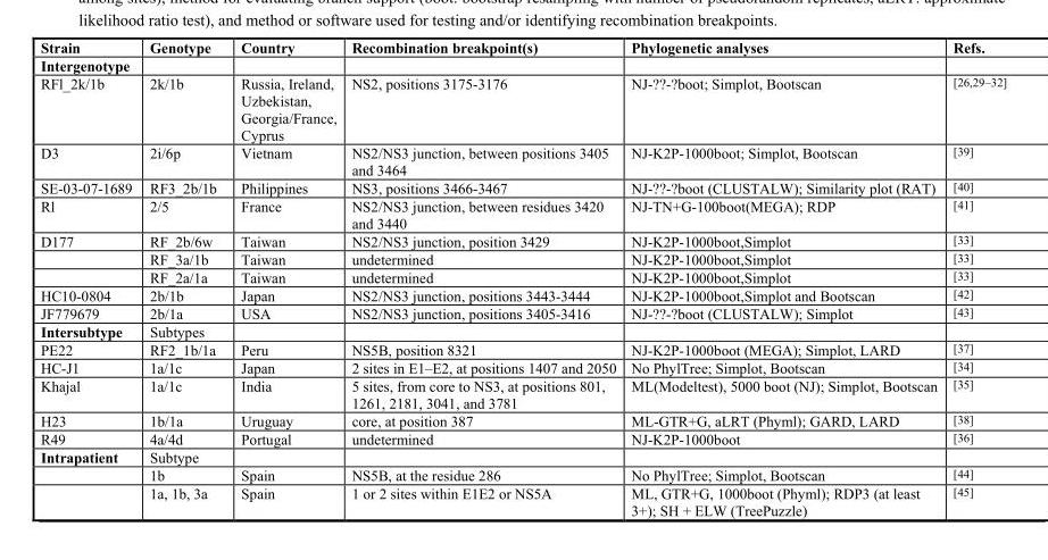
<table><thead><tr><td>Strain</td><td>Genotype</td><td>Country</td><td>Recombination breakpoint(s)</td><td>Phylogenetic analyses</td><td>Refs.</td></tr></thead><tbody><tr><td colspan="6">Intergenotype</td></tr><tr><td>RFl_2k/1b</td><td>2k/1b</td><td>Russia, Ireland, Uzbekistan, Georgia/France, Cyprus</td><td>NS2, positions 3175-3176</td><td>NJ-??-?boot; Simplot, Bootscan</td><td>[26,29–32]</td></tr><tr><td>D3</td><td>2i/6p</td><td>Vietnam</td><td>NS2/NS3 junction, between positions 3405 and 3464</td><td>NJ-K2P-1000boot; Simplot, Bootscan</td><td>[39]</td></tr><tr><td>SE-03-07-1689</td><td>RF3_2b/1b</td><td>Philippines</td><td>NS3, positions 3466-3467</td><td>NJ-??-?boot (CLUSTALW); Similarity plot (RAT)</td><td>[40]</td></tr><tr><td>Rl</td><td>2/5</td><td>France</td><td>NS2/NS3 junction, between residues 3420 and 3440</td><td>NJ-TN+G-100boot(MEGA); RDP</td><td>[41]</td></tr><tr><td rowspan="3">D177</td><td>RF_2b/6w</td><td>Taiwan</td><td>NS2/NS3 junction, position 3429</td><td>NJ-K2P-1000boot,Simplot</td><td>[33]</td></tr><tr><td>RF_3a/1b</td><td>Taiwan</td><td>undetermined</td><td>NJ-K2P-1000boot,Simplot</td><td>[33]</td></tr><tr><td>RF_2a/1a</td><td>Taiwan</td><td>undetermined</td><td>NJ-K2P-1000boot,Simplot</td><td>[33]</td></tr><tr><td>HC10-0804</td><td>2b/1b</td><td>Japan</td><td>NS2/NS3 junction, positions 3443-3444</td><td>NJ-K2P-1000boot,Simplot and Bootscan</td><td>[42]</td></tr><tr><td>JF779679</td><td>2b/1a</td><td>USA</td><td>NS2/NS3 junction, positions 3405-3416</td><td>NJ-??-?boot (CLUSTALW); Simplot</td><td>[43]</td></tr><tr><td>Intersubtype</td><td>Subtypes</td><td></td><td></td><td></td><td></td></tr><tr><td>PE22</td><td>RF2_1b/1a</td><td>Peru</td><td>NS5B, position 8321</td><td>NJ-K2P-1000boot (MEGA); Simplot, LARD</td><td>[37]</td></tr><tr><td>HC-J1</td><td>1a/1c</td><td>Japan</td><td>2 sites in E1–E2, at positions 1407 and 2050</td><td>No PhylTree; Simplot, Bootscan</td><td>[34]</td></tr><tr><td>Khajal</td><td>1a/1c</td><td>India</td><td>5 sites, from core to NS3, at positions 801, 1261, 2181, 3041, and 3781</td><td>ML(Modeltest), 5000 boot (NJ); Simplot, Bootscan</td><td>[35]</td></tr><tr><td>H23</td><td>1b/1a</td><td>Uruguay</td><td>core, at position 387</td><td>ML-GTR+G, aLRT (Phyml); GARD, LARD</td><td>[38]</td></tr><tr><td>R49</td><td>4a/4d</td><td>Portugal</td><td>undetermined</td><td>NJ-K2P-1000boot</td><td>[36]</td></tr><tr><td rowspan="3">Intrapatient</td><td>Subtype</td><td></td><td></td><td></td><td></td></tr><tr><td>1b</td><td>Spain</td><td>NS5B, at the residue 286</td><td>No PhylTree; Simplot, Bootscan</td><td>[44]</td></tr><tr><td>1a, 1b, 3a</td><td>Spain</td><td>1 or 2 sites within E1E2 or NS5A</td><td>ML, GTR+G, 1000boot (Phyml); RDP3 (at least 3+); SH + ELW (TreePuzzle)</td><td>[45]</td></tr></tbody></table>